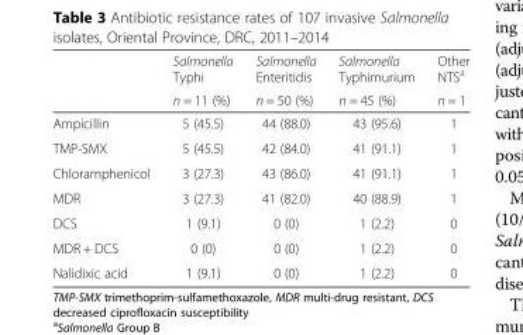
<table><thead><tr><td rowspan="2"></td><td rowspan="2">Salmonella Typhi n = 11 (%)</td><td rowspan="2">Salmonella Enteritidis n = 50 (%)</td><td rowspan="2">Salmonella Typhimurium n = 45 (%)</td><td rowspan="2">Other NTS<sup>a</sup> n = 1</td></tr><tr></tr></thead><tbody><tr><td>Ampicillin</td><td>5 (45.5)</td><td>44 (88.0)</td><td>43 (95.6)</td><td>1</td></tr><tr><td>TMP-SMX</td><td>5 (45.5)</td><td>42 (84.0)</td><td>41 (91.1)</td><td>1</td></tr><tr><td>Chloramphenicol</td><td>3 (27.3)</td><td>43 (86.0)</td><td>41 (91.1)</td><td>1</td></tr><tr><td>MDR</td><td>3 (27.3)</td><td>41 (82.0)</td><td>40 (88.9)</td><td>1</td></tr><tr><td>DCS</td><td>1 (9.1)</td><td>0 (0)</td><td>1 (2.2)</td><td>0</td></tr><tr><td>MDR + DCS</td><td>0 (0)</td><td>0 (0)</td><td>1 (2.2)</td><td>0</td></tr><tr><td>Nalidixic acid</td><td>1 (9.1)</td><td>0 (0)</td><td>1 (2.2)</td><td>0</td></tr></tbody></table>